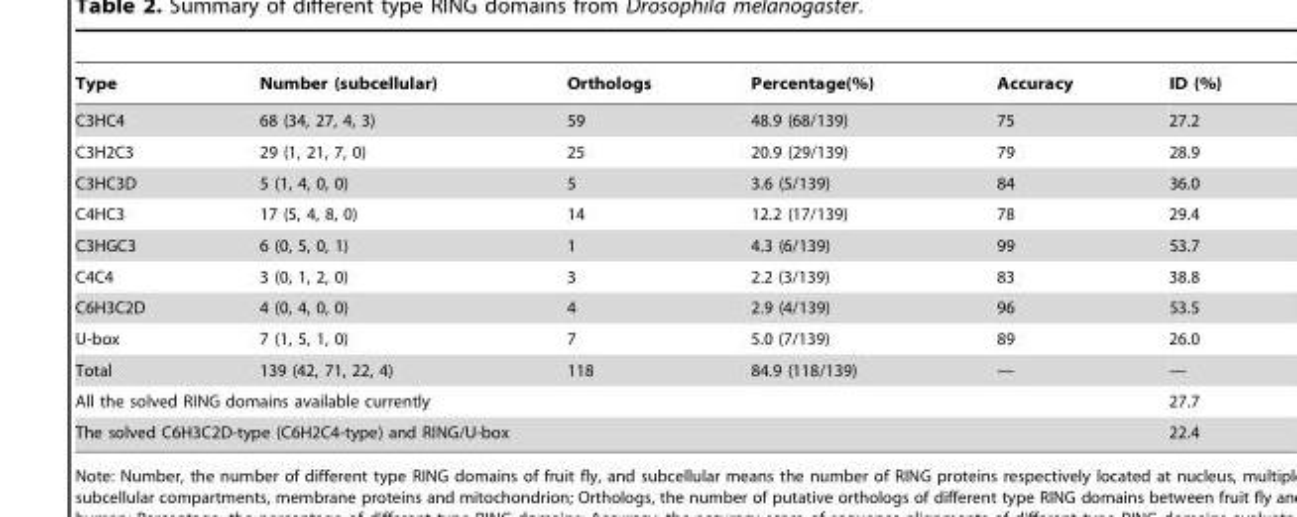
<table><thead><tr><td>Type</td><td>Number (subcellular)</td><td>Orthologs</td><td>Percentage(%)</td><td>Accuracy</td><td>ID (%)</td></tr></thead><tbody><tr><td>C3HC4</td><td>68 (34, 27, 4, 3)</td><td>59</td><td>48.9 (68/139)</td><td>75</td><td>27.2</td></tr><tr><td>C3H2C3</td><td>29 (1, 21, 7, 0)</td><td>25</td><td>20.9 (29/139)</td><td>79</td><td>28.9</td></tr><tr><td>C3HC3D</td><td>5 (1, 4, 0, 0)</td><td>5</td><td>3.6 (5/139)</td><td>84</td><td>36.0</td></tr><tr><td>C4HC3</td><td>17 (5, 4, 8, 0)</td><td>14</td><td>12.2 (17/139)</td><td>78</td><td>29.4</td></tr><tr><td>C3HGC3</td><td>6 (0, 5, 0, 1)</td><td>1</td><td>4.3 (6/139)</td><td>99</td><td>53.7</td></tr><tr><td>C4C4</td><td>3 (0, 1, 2, 0)</td><td>3</td><td>2.2 (3/139)</td><td>83</td><td>38.8</td></tr><tr><td>C6H3C2D</td><td>4 (0, 4, 0, 0)</td><td>4</td><td>2.9 (4/139)</td><td>96</td><td>53.5</td></tr><tr><td>U-box</td><td>7 (1, 5, 1, 0)</td><td>7</td><td>5.0 (7/139)</td><td>89</td><td>26.0</td></tr><tr><td>Total</td><td>139 (42, 71, 22, 4)</td><td>118</td><td>84.9 (118/139)</td><td>—</td><td>—</td></tr><tr><td colspan="5">All the solved RING domains available currently</td><td>27.7</td></tr><tr><td colspan="5">The solved C6H3C2D-type (C6H2C4-type) and RING/U-box</td><td>22.4</td></tr></tbody></table>